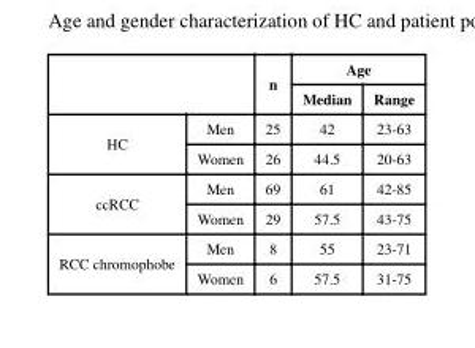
<table><thead><tr><td rowspan="2"></td><td rowspan="2"></td><td rowspan="2">n</td><td colspan="2">Age</td></tr><tr><td>Median</td><td>Range</td></tr></thead><tbody><tr><td rowspan="2">HC</td><td>Men</td><td>25</td><td>42</td><td>23-63</td></tr><tr><td>Women</td><td>26</td><td>44.5</td><td>20-63</td></tr><tr><td rowspan="2">ccRCC</td><td>Men</td><td>69</td><td>61</td><td>42-85</td></tr><tr><td>Women</td><td>29</td><td>57.5</td><td>43-75</td></tr><tr><td rowspan="2">RCC chromophobe</td><td>Men</td><td>8</td><td>55</td><td>23-71</td></tr><tr><td>Women</td><td>6</td><td>57.5</td><td>31-75</td></tr></tbody></table>